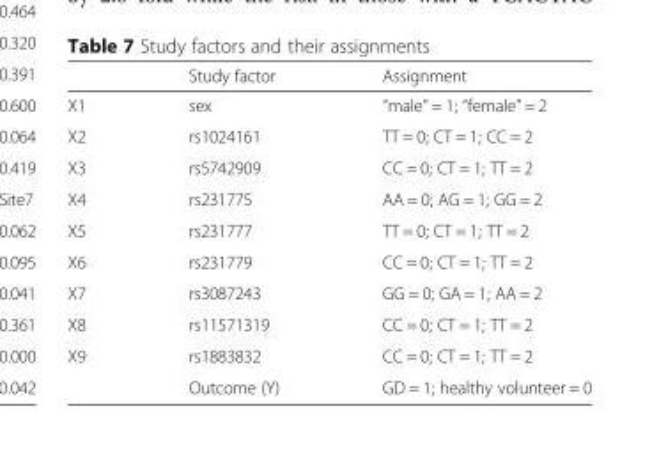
<table><thead><tr><td></td><td>Study factor</td><td>Assignment</td></tr></thead><tbody><tr><td>X1</td><td>sex</td><td>“male” = 1; “female” = 2</td></tr><tr><td>X2</td><td>rs1024161</td><td>TT = 0; CT = 1; CC = 2</td></tr><tr><td>X3</td><td>rs5742909</td><td>CC = 0; CT = 1; TT = 2</td></tr><tr><td>X4</td><td>rs231775</td><td>AA = 0; AG = 1; GG = 2</td></tr><tr><td>X5</td><td>rs231777</td><td>TT = 0; CT = 1; TT = 2</td></tr><tr><td>X6</td><td>rs231779</td><td>CC = 0; CT = 1; TT = 2</td></tr><tr><td>X7</td><td>rs3087243</td><td>GG = 0; GA = 1; AA = 2</td></tr><tr><td>X8</td><td>rs11571319</td><td>CC = 0; CT = 1; TT = 2</td></tr><tr><td rowspan="2">X9</td><td>rs1883832</td><td>CC = 0; CT = 1; TT = 2</td></tr><tr><td>Outcome (Y)</td><td>GD = 1; healthy volunteer = 0</td></tr></tbody></table>